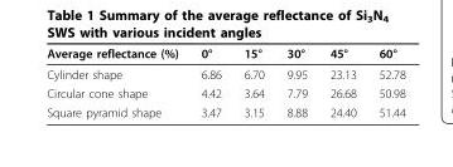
<table><thead><tr><td>Average reflectance (%)</td><td>0°</td><td>15°</td><td>30°</td><td>45°</td><td>60°</td></tr></thead><tbody><tr><td>Cylinder shape</td><td>6.86</td><td>6.70</td><td>9.95</td><td>23.13</td><td>52.78</td></tr><tr><td>Circular cone shape</td><td>4.42</td><td>3.64</td><td>7.79</td><td>26.68</td><td>50.98</td></tr><tr><td>Square pyramid shape</td><td>3.47</td><td>3.15</td><td>8.88</td><td>24.40</td><td>51.44</td></tr></tbody></table>